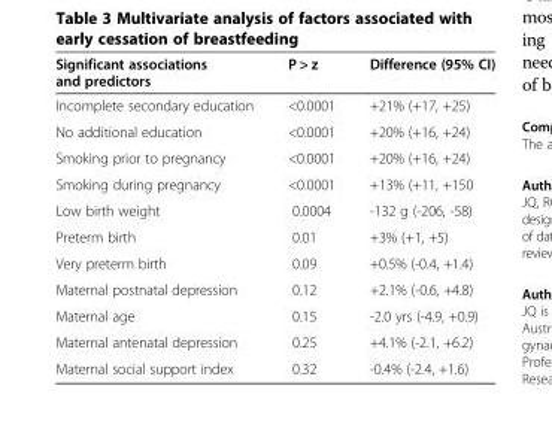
<table><thead><tr><td>Significant associations and predictors</td><td>P &gt; z</td><td>Difference (95% CI)</td></tr></thead><tbody><tr><td>Incomplete secondary education</td><td>&lt;0.0001</td><td>+21% (+17, +25)</td></tr><tr><td>No additional education</td><td>&lt;0.0001</td><td>+20% (+16, +24)</td></tr><tr><td>Smoking prior to pregnancy</td><td>&lt;0.0001</td><td>+20% (+16, +24)</td></tr><tr><td>Smoking during pregnancy</td><td>&lt;0.0001</td><td>+13% (+11, +150</td></tr><tr><td>Low birth weight</td><td>0.0004</td><td>-132 g (-206, -58)</td></tr><tr><td>Preterm birth</td><td>0.01</td><td>+3% (+1, +5)</td></tr><tr><td>Very preterm birth</td><td>0.09</td><td>+0.5% (-0.4, +1.4)</td></tr><tr><td>Maternal postnatal depression</td><td>0.12</td><td>+2.1% (-0.6, +4.8)</td></tr><tr><td>Maternal age</td><td>0.15</td><td>-2.0 yrs (-4.9, +0.9)</td></tr><tr><td>Maternal antenatal depression</td><td>0.25</td><td>+4.1% (-2.1, +6.2)</td></tr><tr><td>Maternal social support index</td><td>0.32</td><td>-0.4% (-2.4, +1.6)</td></tr></tbody></table>